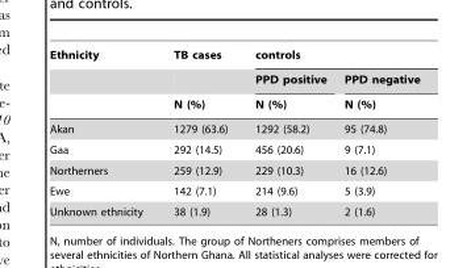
<table><thead><tr><td rowspan="3">Ethnicity</td><td rowspan="3">TB cases N (%)</td><td colspan="2">controls</td></tr><tr><td rowspan="2">PPD positive N (%)</td><td rowspan="2">PPD negative N (%)</td></tr><tr></tr></thead><tbody><tr><td>Akan</td><td>1279 (63.6)</td><td>1292 (58.2)</td><td>95 (74.8)</td></tr><tr><td>Gaa</td><td>292 (14.5)</td><td>456 (20.6)</td><td>9 (7.1)</td></tr><tr><td>Northerners</td><td>259 (12.9)</td><td>229 (10.3)</td><td>16 (12.6)</td></tr><tr><td>Ewe</td><td>142 (7.1)</td><td>214 (9.6)</td><td>5 (3.9)</td></tr><tr><td>Unknown ethnicity</td><td>38 (1.9)</td><td>28 (1.3)</td><td>2 (1.6)</td></tr></tbody></table>